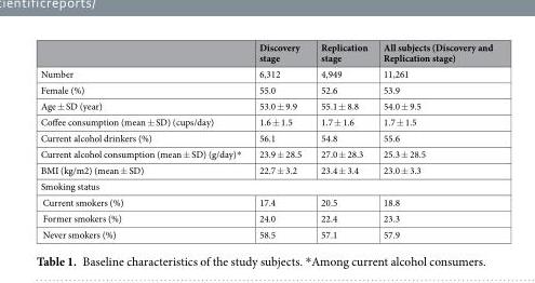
<table><thead><tr><td></td><td>Discovery stage</td><td>Replication stage</td><td>All subjects (Discovery and Replication stage)</td></tr></thead><tbody><tr><td>Number</td><td>6,312</td><td>4,949</td><td>11,261</td></tr><tr><td>Female (%)</td><td>55.0</td><td>52.6</td><td>53.9</td></tr><tr><td>Age ± SD (year)</td><td>53.0 ± 9.9</td><td>55.1 ± 8.8</td><td>54.0 ± 9.5</td></tr><tr><td>Coffee consumption (mean ± SD) (cups/day)</td><td>1.6 ± 1.5</td><td>1.7 ± 1.6</td><td>1.7 ± 1.5</td></tr><tr><td>Current alcohol drinkers (%)</td><td>56.1</td><td>54.8</td><td>55.6</td></tr><tr><td>Current alcohol consumption (mean ± SD) (g/day)*</td><td>23.9 ± 28.5</td><td>27.0 ± 28.3</td><td>25.3 ± 28.5</td></tr><tr><td>BMI (kg/m2) (mean ± SD)</td><td>22.7 ± 3.2</td><td>23.4 ± 3.4</td><td>23.0 ± 3.3</td></tr><tr><td colspan="4">Smoking status</td></tr><tr><td>Current smokers (%)</td><td>17.4</td><td>20.5</td><td>18.8</td></tr><tr><td>Former smokers (%)</td><td>24.0</td><td>22.4</td><td>23.3</td></tr><tr><td>Never smokers (%)</td><td>58.5</td><td>57.1</td><td>57.9</td></tr></tbody></table>